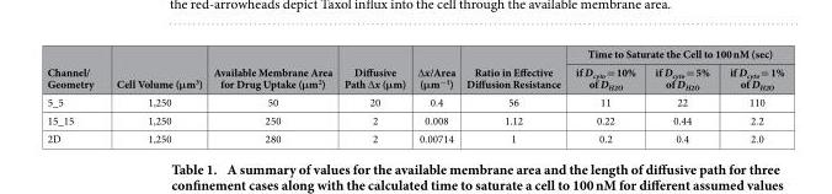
<table><thead><tr><td rowspan="2">Channel/ Geometry</td><td rowspan="2">Cell Volume (μm<sup>3</sup>)</td><td rowspan="2">Available Membrane Area for Drug Uptake (μm<sup>2</sup>)</td><td rowspan="2">Diffusive Path ∆x (μm)</td><td rowspan="2">∆x/Area (μm<sup>−1</sup>)</td><td rowspan="2">Ratio in Effective Diffusion Resistance</td><td colspan="3">Time to Saturate the Cell to 100 nM (sec)</td></tr><tr><td>if D<sub>cyto</sub> = 10% of D<sub>H2O</sub></td><td>if D<sub>cyto</sub> = 5% of D<sub>H2O</sub></td><td>if D<sub>cyto</sub> = 1% of D<sub>H2O</sub></td></tr></thead><tbody><tr><td>5_5</td><td>1,250</td><td>50</td><td>20</td><td>0.4</td><td>56</td><td>11</td><td>22</td><td>110</td></tr><tr><td>15_15</td><td>1,250</td><td>250</td><td>2</td><td>0.008</td><td>1.12</td><td>0.22</td><td>0.44</td><td>2.2</td></tr><tr><td>2D</td><td>1,250</td><td>280</td><td>2</td><td>0.00714</td><td>1</td><td>0.2</td><td>0.4</td><td>2.0</td></tr></tbody></table>